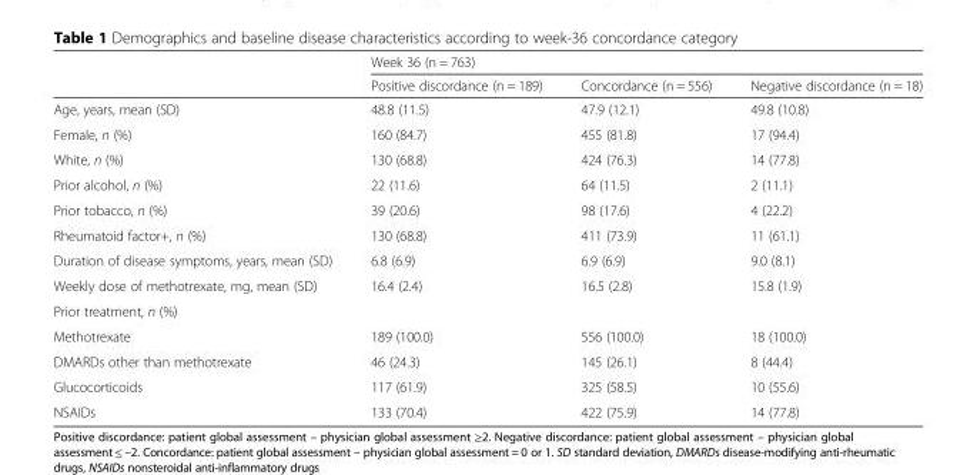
<table><thead><tr><td rowspan="2"></td><td colspan="3">Week 36 (n = 763)</td></tr><tr><td>Positive discordance (n = 189)</td><td>Concordance (n = 556)</td><td>Negative discordance (n = 18)</td></tr></thead><tbody><tr><td>Age, years, mean (SD)</td><td>48.8 (11.5)</td><td>47.9 (12.1)</td><td>49.8 (10.8)</td></tr><tr><td>Female, n (%)</td><td>160 (84.7)</td><td>455 (81.8)</td><td>17 (94.4)</td></tr><tr><td>White, n (%)</td><td>130 (68.8)</td><td>424 (76.3)</td><td>14 (77.8)</td></tr><tr><td>Prior alcohol, n (%)</td><td>22 (11.6)</td><td>64 (11.5)</td><td>2 (11.1)</td></tr><tr><td>Prior tobacco, n (%)</td><td>39 (20.6)</td><td>98 (17.6)</td><td>4 (22.2)</td></tr><tr><td>Rheumatoid factor+, n (%)</td><td>130 (68.8)</td><td>411 (73.9)</td><td>11 (61.1)</td></tr><tr><td>Duration of disease symptoms, years, mean (SD)</td><td>6.8 (6.9)</td><td>6.9 (6.9)</td><td>9.0 (8.1)</td></tr><tr><td>Weekly dose of methotrexate, mg, mean (SD)</td><td>16.4 (2.4)</td><td>16.5 (2.8)</td><td>15.8 (1.9)</td></tr><tr><td colspan="4">Prior treatment, n (%)</td></tr><tr><td>Methotrexate</td><td>189 (100.0)</td><td>556 (100.0)</td><td>18 (100.0)</td></tr><tr><td>DMARDs other than methotrexate</td><td>46 (24.3)</td><td>145 (26.1)</td><td>8 (44.4)</td></tr><tr><td>Glucocorticoids</td><td>117 (61.9)</td><td>325 (58.5)</td><td>10 (55.6)</td></tr><tr><td>NSAIDs</td><td>133 (70.4)</td><td>422 (75.9)</td><td>14 (77.8)</td></tr></tbody></table>